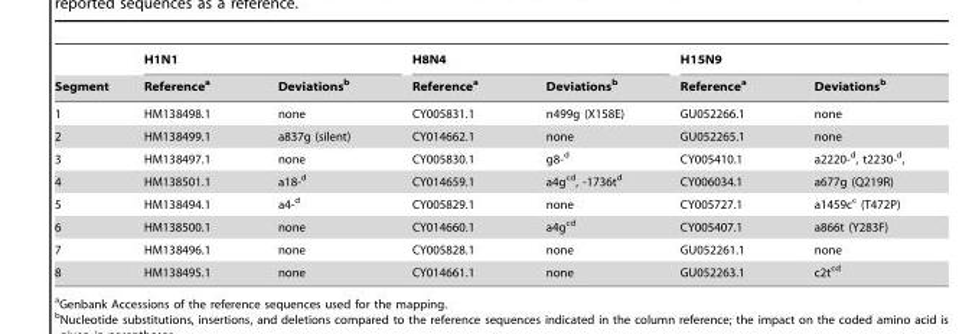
<table><thead><tr><td rowspan="2">Segment</td><td colspan="2">H1N1</td><td colspan="2">H8N4</td><td colspan="2">H15N9</td></tr><tr><td>Reference<sup>a</sup></td><td>Deviations<sup>b</sup></td><td>Reference<sup>a</sup></td><td>Deviations<sup>b</sup></td><td>Reference<sup>a</sup></td><td>Deviations<sup>b</sup></td></tr></thead><tbody><tr><td>1</td><td>HM138498.1</td><td>none</td><td>CY005831.1</td><td>n499g (X158E)</td><td>GU052266.1</td><td>none</td></tr><tr><td>2</td><td>HM138499.1</td><td>a837g (silent)</td><td>CY014662.1</td><td>none</td><td>GU052265.1</td><td>none</td></tr><tr><td>3</td><td>HM138497.1</td><td>none</td><td>CY005830.1</td><td>g8-d</td><td>CY005410.1</td><td>a2220-d, t2230-d,</td></tr><tr><td>4</td><td>HM138501.1</td><td>a18-d</td><td>CY014659.1</td><td>a4g<sup>cd</sup>, -1736t<sup>d</sup></td><td>CY006034.1</td><td>a677g (Q219R)</td></tr><tr><td>5</td><td>HM138494.1</td><td>a4-d</td><td>CY005829.1</td><td>none</td><td>CY005727.1</td><td>a1459c<sup>c</sup> (T472P)</td></tr><tr><td>6</td><td>HM138500.1</td><td>none</td><td>CY014660.1</td><td>a4g<sup>cd</sup></td><td>CY005407.1</td><td>a866t (Y283F)</td></tr><tr><td>7</td><td>HM138496.1</td><td>none</td><td>CY005828.1</td><td>none</td><td>GU052261.1</td><td>none</td></tr><tr><td>8</td><td>HM138495.1</td><td>none</td><td>CY014661.1</td><td>none</td><td>GU052263.1</td><td>c2t<sup>cd</sup></td></tr></tbody></table>